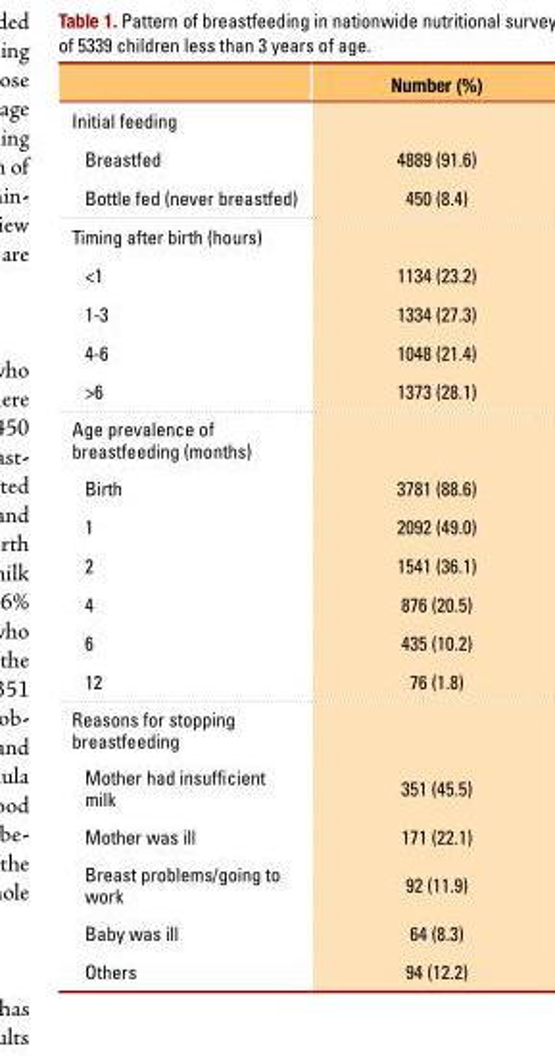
<table><thead><tr><td></td><td>Number (%)</td></tr></thead><tbody><tr><td colspan="2">initial feeding</td></tr><tr><td>Breastfed</td><td>4889 (91.6)</td></tr><tr><td>Bottle fed (never breastfed)</td><td>450 (8.4)</td></tr><tr><td colspan="2">timing after birth (hours)</td></tr><tr><td>&lt;1</td><td>1134 (23.2)</td></tr><tr><td>1-3</td><td>1334 (27.3)</td></tr><tr><td>4-6</td><td>1048 (21.4)</td></tr><tr><td>&gt;6</td><td>1373 (28.1)</td></tr><tr><td colspan="2">Age prevalence of breastfeeding (months)</td></tr><tr><td>Birth</td><td>3781 (88.6)</td></tr><tr><td>1</td><td>2092 (49.0)</td></tr><tr><td>2</td><td>1541 (36.1)</td></tr><tr><td>4</td><td>876 (20.5)</td></tr><tr><td>6</td><td>435 (10.2)</td></tr><tr><td>12</td><td>76 (1.8)</td></tr><tr><td colspan="2">reasons for stopping breastfeeding</td></tr><tr><td>Mother had insufficient milk</td><td>351 (45.5)</td></tr><tr><td>Mother was ill</td><td>171 (22.1)</td></tr><tr><td>Breast problems/going to work</td><td>92 (11.9)</td></tr><tr><td>Baby was ill</td><td>64 (8.3)</td></tr><tr><td>others</td><td>94 (12.2)</td></tr></tbody></table>